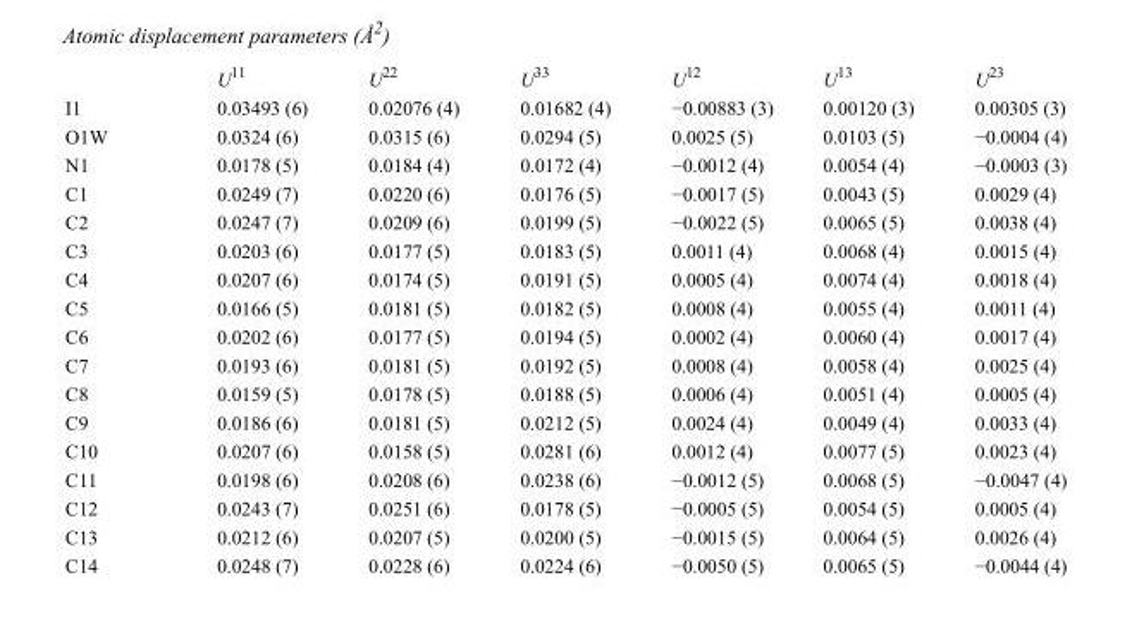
<table><thead><tr><td></td><td>U<sup>11</sup></td><td>U<sup>22</sup></td><td>U<sup>33</sup></td><td>U<sup>12</sup></td><td>U<sup>13</sup></td><td>U<sup>23</sup></td></tr></thead><tbody><tr><td>I1</td><td>0.03493 (6)</td><td>0.02076 (4)</td><td>0.01682 (4)</td><td>−0.00883 (3)</td><td>0.00120 (3)</td><td>0.00305 (3)</td></tr><tr><td>O1W</td><td>0.0324 (6)</td><td>0.0315 (6)</td><td>0.0294 (5)</td><td>0.0025 (5)</td><td>0.0103 (5)</td><td>−0.0004 (4)</td></tr><tr><td>N1</td><td>0.0178 (5)</td><td>0.0184 (4)</td><td>0.0172 (4)</td><td>−0.0012 (4)</td><td>0.0054 (4)</td><td>−0.0003 (3)</td></tr><tr><td>C1</td><td>0.0249 (7)</td><td>0.0220 (6)</td><td>0.0176 (5)</td><td>−0.0017 (5)</td><td>0.0043 (5)</td><td>0.0029 (4)</td></tr><tr><td>C2</td><td>0.0247 (7)</td><td>0.0209 (6)</td><td>0.0199 (5)</td><td>−0.0022 (5)</td><td>0.0065 (5)</td><td>0.0038 (4)</td></tr><tr><td>C3</td><td>0.0203 (6)</td><td>0.0177 (5)</td><td>0.0183 (5)</td><td>0.0011 (4)</td><td>0.0068 (4)</td><td>0.0015 (4)</td></tr><tr><td>C4</td><td>0.0207 (6)</td><td>0.0174 (5)</td><td>0.0191 (5)</td><td>0.0005 (4)</td><td>0.0074 (4)</td><td>0.0018 (4)</td></tr><tr><td>C5</td><td>0.0166 (5)</td><td>0.0181 (5)</td><td>0.0182 (5)</td><td>0.0008 (4)</td><td>0.0055 (4)</td><td>0.0011 (4)</td></tr><tr><td>C6</td><td>0.0202 (6)</td><td>0.0177 (5)</td><td>0.0194 (5)</td><td>0.0002 (4)</td><td>0.0060 (4)</td><td>0.0017 (4)</td></tr><tr><td>C7</td><td>0.0193 (6)</td><td>0.0181 (5)</td><td>0.0192 (5)</td><td>0.0008 (4)</td><td>0.0058 (4)</td><td>0.0025 (4)</td></tr><tr><td>C8</td><td>0.0159 (5)</td><td>0.0178 (5)</td><td>0.0188 (5)</td><td>0.0006 (4)</td><td>0.0051 (4)</td><td>0.0005 (4)</td></tr><tr><td>C9</td><td>0.0186 (6)</td><td>0.0181 (5)</td><td>0.0212 (5)</td><td>0.0024 (4)</td><td>0.0049 (4)</td><td>0.0033 (4)</td></tr><tr><td>C10</td><td>0.0207 (6)</td><td>0.0158 (5)</td><td>0.0281 (6)</td><td>0.0012 (4)</td><td>0.0077 (5)</td><td>0.0023 (4)</td></tr><tr><td>C11</td><td>0.0198 (6)</td><td>0.0208 (6)</td><td>0.0238 (6)</td><td>−0.0012 (5)</td><td>0.0068 (5)</td><td>−0.0047 (4)</td></tr><tr><td>C12</td><td>0.0243 (7)</td><td>0.0251 (6)</td><td>0.0178 (5)</td><td>−0.0005 (5)</td><td>0.0054 (5)</td><td>0.0005 (4)</td></tr><tr><td>C13</td><td>0.0212 (6)</td><td>0.0207 (5)</td><td>0.0200 (5)</td><td>−0.0015 (5)</td><td>0.0064 (5)</td><td>0.0026 (4)</td></tr><tr><td>C14</td><td>0.0248 (7)</td><td>0.0228 (6)</td><td>0.0224 (6)</td><td>−0.0050 (5)</td><td>0.0065 (5)</td><td>−0.0044 (4)</td></tr></tbody></table>